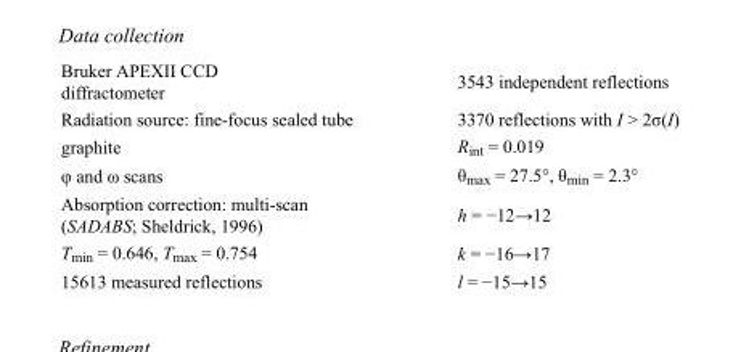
<table><tbody><tr><td>Bruker APEXII CCD diffractometer</td><td>3543 independent reflections</td></tr><tr><td>Radiation source: fine-focus sealed tube</td><td>3370 reflections with I &gt; 2σ(I)</td></tr><tr><td>graphite</td><td>R<sub>int</sub> = 0.019</td></tr><tr><td>φ and ω scans</td><td>θ<sub>max</sub> = 27.5°, θ<sub>min</sub> = 2.3°</td></tr><tr><td>Absorption correction: multi-scan (SADABS; Sheldrick, 1996)</td><td>h = −12→12</td></tr><tr><td>T<sub>min</sub> = 0.646, T<sub>max</sub> = 0.754</td><td>k = −16→17</td></tr><tr><td>15613 measured reflections</td><td>l = −15→15</td></tr></tbody></table>